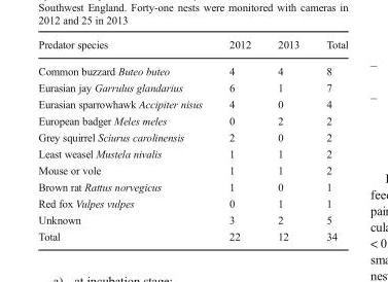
<table><thead><tr><td>Predator species</td><td>2012</td><td>2013</td><td>Total</td></tr></thead><tbody><tr><td>Common buzzard Buteo buteo</td><td>4</td><td>4</td><td>8</td></tr><tr><td>Eurasian jay Garrulus glandarius</td><td>6</td><td>1</td><td>7</td></tr><tr><td>Eurasian sparrowhawk Accipiter nisus</td><td>4</td><td>0</td><td>4</td></tr><tr><td>European badger Meles meles</td><td>0</td><td>2</td><td>2</td></tr><tr><td>Grey squirrel Sciurus carolinensis</td><td>2</td><td>0</td><td>2</td></tr><tr><td>Least weasel Mustela nivalis</td><td>1</td><td>1</td><td>2</td></tr><tr><td>Mouse or vole</td><td>1</td><td>1</td><td>2</td></tr><tr><td>Brown rat Rattus norvegicus</td><td>1</td><td>0</td><td>1</td></tr><tr><td>Red fox Vulpes vulpes</td><td>0</td><td>1</td><td>1</td></tr><tr><td>Unknown</td><td>3</td><td>2</td><td>5</td></tr><tr><td>Total</td><td>22</td><td>12</td><td>34</td></tr></tbody></table>